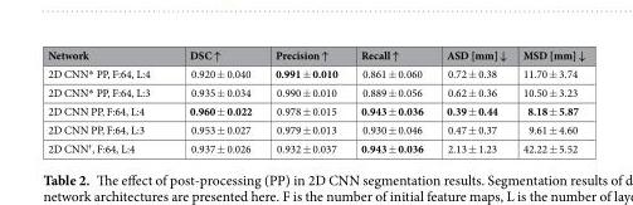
<table><thead><tr><td>Network</td><td>DSC ↑</td><td>Precision ↑</td><td>Recall ↑</td><td>ASD [mm] ↓</td><td>MSD [mm] ↓</td></tr></thead><tbody><tr><td>2D CNN* PP, F:64, L:4</td><td>0.920 ± 0.040</td><td>0.991 ± 0.010</td><td>0.861 ± 0.060</td><td>0.72 ± 0.38</td><td>11.70 ± 3.74</td></tr><tr><td>2D CNN* PP, F:64, L:3</td><td>0.935 ± 0.034</td><td>0.990 ± 0.010</td><td>0.889 ± 0.056</td><td>0.62 ± 0.36</td><td>10.50 ± 3.23</td></tr><tr><td>2D CNN PP, F:64, L:4</td><td>0.960 ± 0.022</td><td>0.978 ± 0.015</td><td>0.943 ± 0.036</td><td>0.39 ± 0.44</td><td>8.18 ± 5.87</td></tr><tr><td>2D CNN PP, F:64, L:3</td><td>0.953 ± 0.027</td><td>0.979 ± 0.013</td><td>0.930 ± 0.046</td><td>0.47 ± 0.37</td><td>9.61 ± 4.60</td></tr><tr><td>2D CNN<sup>†</sup>, F:64, L:4</td><td>0.937 ± 0.026</td><td>0.932 ± 0.037</td><td>0.943 ± 0.036</td><td>2.13 ± 1.23</td><td>42.22 ± 5.52</td></tr></tbody></table>